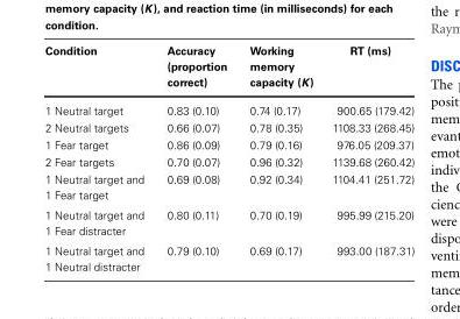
<table><thead><tr><td>Condition</td><td>Accuracy (proportion correct)</td><td>Working memory capacity (K)</td><td>RT (ms)</td></tr></thead><tbody><tr><td>1 Neutral target</td><td>0.83 (0.10)</td><td>0.74 (0.17)</td><td>900.65 (179.42)</td></tr><tr><td>2 Neutral targets</td><td>0.66 (0.07)</td><td>0.78 (0.35)</td><td>1108.33 (268.45)</td></tr><tr><td>1 Fear target</td><td>0.86 (0.09)</td><td>0.79 (0.16)</td><td>976.05 (209.37)</td></tr><tr><td>2 Fear targets</td><td>0.70 (0.07)</td><td>0.96 (0.32)</td><td>1139.68 (260.42)</td></tr><tr><td>1 Neutral target and 1 Fear target</td><td>0.69 (0.08)</td><td>0.92 (0.34)</td><td>1104.41 (251.72)</td></tr><tr><td>1 Neutral target and 1 Fear distracter</td><td>0.80 (0.11)</td><td>0.70 (0.19)</td><td>995.99 (215.20)</td></tr><tr><td>1 Neutral target and 1 Neutral distracter</td><td>0.79 (0.10)</td><td>0.69 (0.17)</td><td>993.00 (187.31)</td></tr></tbody></table>